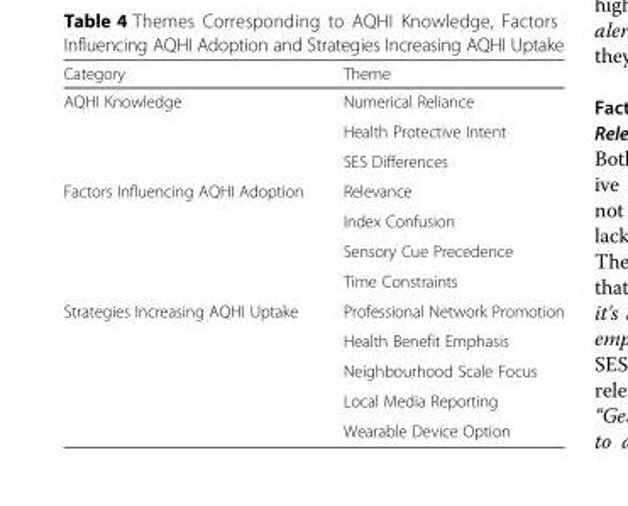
<table><thead><tr><td>Category</td><td>Theme</td></tr></thead><tbody><tr><td rowspan="3">AQHI Knowledge</td><td>Numerical Reliance</td></tr><tr><td>Health Protective Intent</td></tr><tr><td>SES Differences</td></tr><tr><td rowspan="4">Factors Influencing AQHI Adoption</td><td>Relevance</td></tr><tr><td>Index Confusion</td></tr><tr><td>Sensory Cue Precedence</td></tr><tr><td>Time Constraints</td></tr><tr><td rowspan="5">Strategies Increasing AQHI Uptake</td><td>Professional Network Promotion</td></tr><tr><td>Health Benefit Emphasis</td></tr><tr><td>Neighbourhood Scale Focus</td></tr><tr><td>Local Media Reporting</td></tr><tr><td>Wearable Device Option</td></tr></tbody></table>